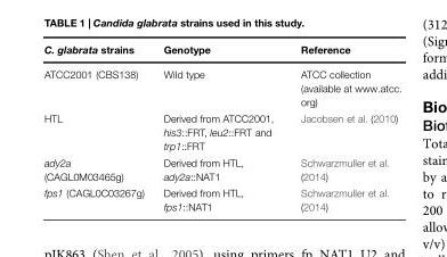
<table><thead><tr><td>C. glabrata strains</td><td>Genotype</td><td>Reference</td></tr></thead><tbody><tr><td>ATCC2001 (CBS138)</td><td>Wild type</td><td>ATCC collection (available at www.atcc. org)</td></tr><tr><td>HTL</td><td>Derived from ATCC2001, his3::FRT, leu2::FRT and trp1::FRT</td><td>Jacobsen et al. (2010)</td></tr><tr><td>ady2a (CAGL0M03465g)</td><td>Derived from HTL, ady2a::NAT1</td><td>Schwarzmuller et al. (2014)</td></tr><tr><td>fps1 (CAGL0C03267g)</td><td>Derived from HTL, fps1::NAT1</td><td>Schwarzmuller et al. (2014)</td></tr></tbody></table>